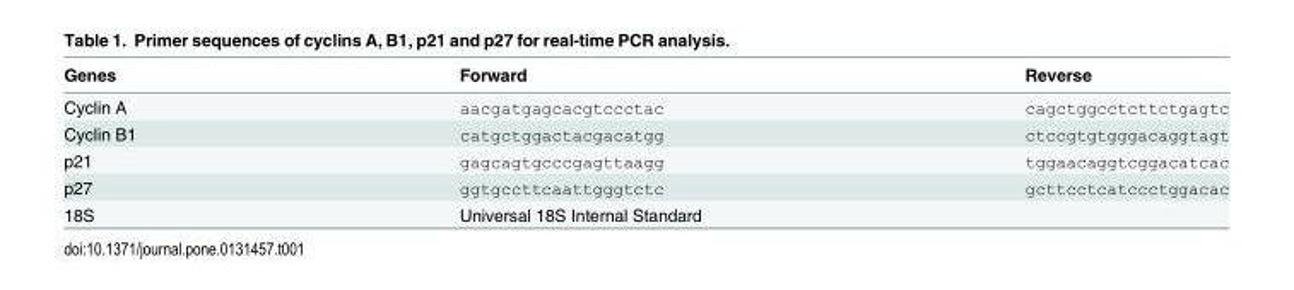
<table><thead><tr><td>Genes</td><td>Forward</td><td>Reverse</td></tr></thead><tbody><tr><td>Cyclin A</td><td>aacgatgagcacgtccctac</td><td>cagctggcctcttctgagtc</td></tr><tr><td>Cyclin B1</td><td>catgctggactacgacatgg</td><td>ctccgtgtgggacaggtagt</td></tr><tr><td>p21</td><td>gagcagtgcccgagttaagg</td><td>tggaacaggtcggacatcac</td></tr><tr><td>p27</td><td>ggtgccttcaattgggtctc</td><td>gcttcctcatccctggacac</td></tr><tr><td>18S</td><td>Universal 18S Internal Standard</td><td></td></tr></tbody></table>